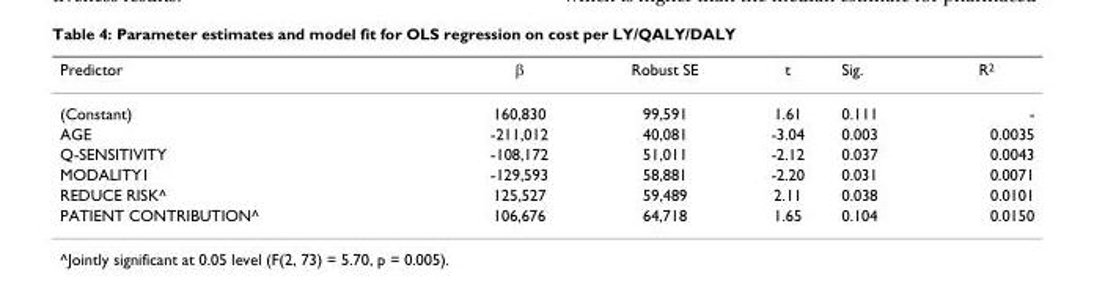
<table><thead><tr><td>Predictor</td><td>β</td><td>Robust SE</td><td>t</td><td>Sig.</td><td>R<sup>2</sup></td></tr></thead><tbody><tr><td>(Constant)</td><td>160,830</td><td>99,591</td><td>1.61</td><td>0.111</td><td>-</td></tr><tr><td>AGE</td><td>-211,012</td><td>40,081</td><td>-3.04</td><td>0.003</td><td>0.0035</td></tr><tr><td>Q-SENSITIVITY</td><td>-108,172</td><td>51,011</td><td>-2.12</td><td>0.037</td><td>0.0043</td></tr><tr><td>MODALITY1</td><td>-129,593</td><td>58,881</td><td>-2.20</td><td>0.031</td><td>0.0071</td></tr><tr><td>REDUCE RISK^</td><td>125,527</td><td>59,489</td><td>2.11</td><td>0.038</td><td>0.0101</td></tr><tr><td>PATIENT CONTRIBUTION^</td><td>106,676</td><td>64,718</td><td>1.65</td><td>0.104</td><td>0.0150</td></tr></tbody></table>